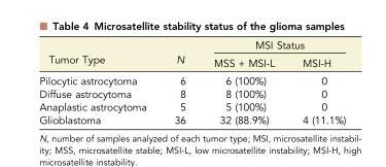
<table><thead><tr><td rowspan="2">Tumor Type</td><td rowspan="2">N</td><td colspan="2">MSI Status</td></tr><tr><td>MSS + MSI-L</td><td>MSI-H</td></tr></thead><tbody><tr><td>Pilocytic astrocytoma</td><td>6</td><td>6 (100%)</td><td>0</td></tr><tr><td>Diffuse astrocytoma</td><td>8</td><td>8 (100%)</td><td>0</td></tr><tr><td>Anaplastic astrocytoma</td><td>5</td><td>5 (100%)</td><td>0</td></tr><tr><td>Glioblastoma</td><td>36</td><td>32 (88.9%)</td><td>4 (11.1%)</td></tr></tbody></table>